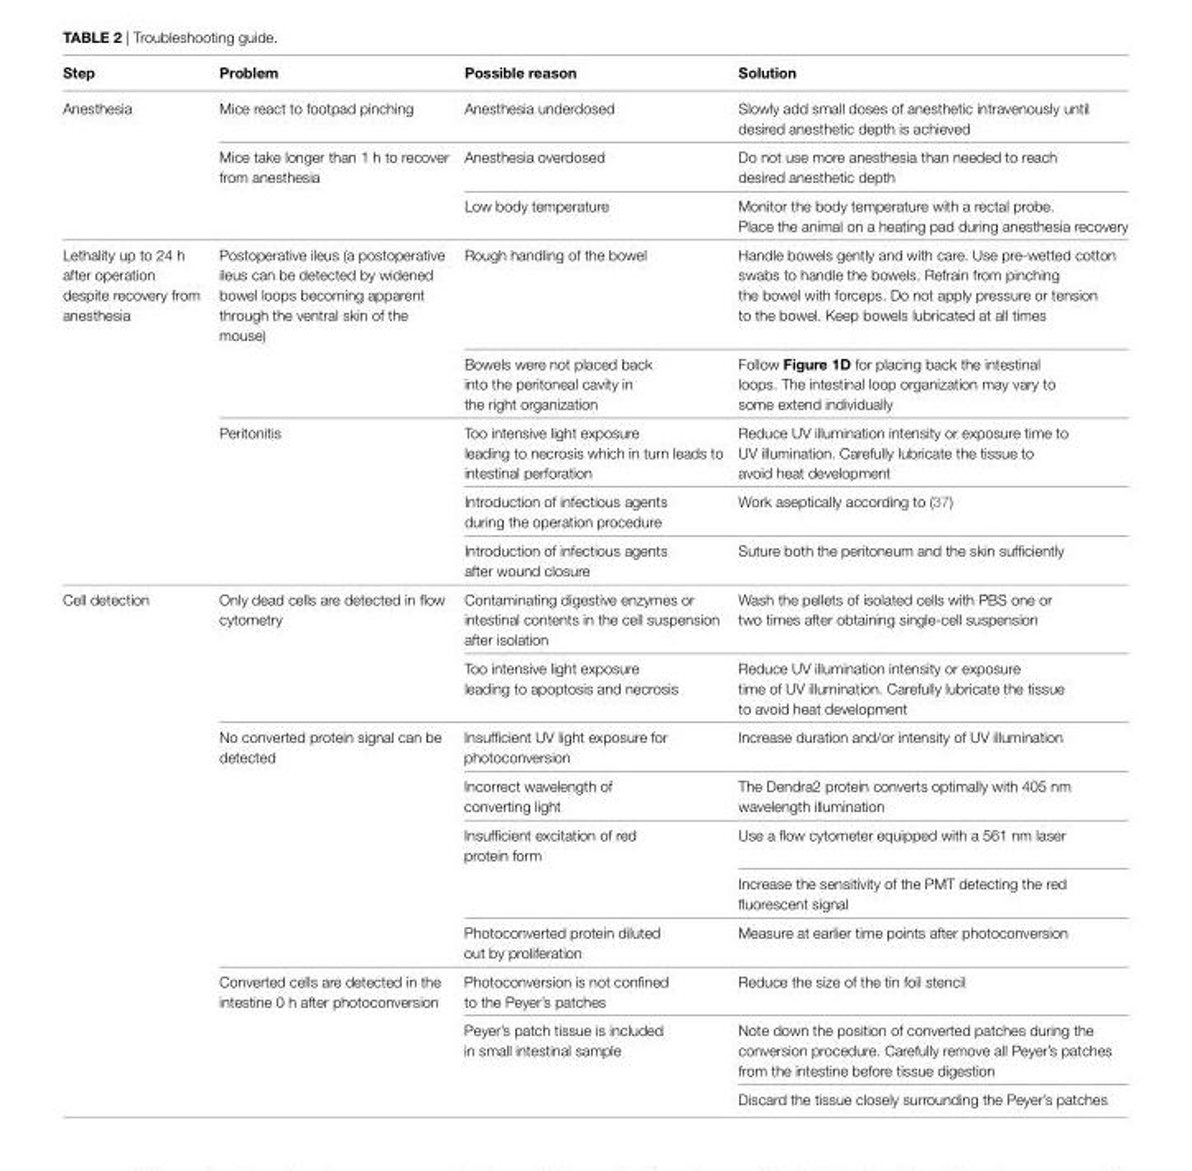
<table><thead><tr><td>step</td><td>Problem</td><td>Possible reason</td><td>solution</td></tr></thead><tbody><tr><td rowspan="3">Anesthesia</td><td>Mice react to footpad pinching</td><td>Anesthesia underdosed</td><td>Slowly add small doses of anesthetic intravenously until desired anesthetic depth is achieved</td></tr><tr><td>Mice take longer than 1 h to recover from anesthesia</td><td>Anesthesia overdosed</td><td>Do not use more anesthesia than needed to reach desired anesthetic depth</td></tr><tr><td></td><td>Low body temperature</td><td>Monitor the body temperature with a rectal probe. Place the animal on a heating pad during anesthesia recovery</td></tr><tr><td rowspan="5">Lethality up to 24 h after operation despite recovery from anesthesia</td><td>Postoperative ileus (a postoperative ileus can be detected by widened bowel loops becoming apparent through the ventral skin of the mouse)</td><td>Rough handling of the bowel</td><td>Handle bowels gently and with care. Use pre-wetted cotton swabs to handle the bowels. Refrain from pinching the bowel with forceps. Do not apply pressure or tension to the bowel. Keep bowels lubricated at all times</td></tr><tr><td></td><td>Bowels were not placed back into the peritoneal cavity in the right organization</td><td>Follow Figure 1D for placing back the intestinal loops. The intestinal loop organization may vary to some extend individually</td></tr><tr><td>Peritonitis</td><td>Too intensive light exposure leading to necrosis which in turn leads to intestinal perforation</td><td>Reduce UV illumination intensity or exposure time to UV illumination. Carefully lubricate the tissue to avoid heat development</td></tr><tr><td></td><td>Introduction of infectious agents during the operation procedure</td><td>Work aseptically according to (37)</td></tr><tr><td></td><td>Introduction of infectious agents after wound closure</td><td>Suture both the peritoneum and the skin sufficiently</td></tr><tr><td rowspan="10">Cell detection</td><td>Only dead cells are detected in flow cytometry</td><td>Contaminating digestive enzymes or intestinal contents in the cell suspension after isolation</td><td>Wash the pellets of isolated cells with PBS one or two times after obtaining single-cell suspension</td></tr><tr><td></td><td>Too intensive light exposure leading to apoptosis and necrosis</td><td>Reduce UV illumination intensity or exposure time of UV illumination. Carefully lubricate the tissue to avoid heat development</td></tr><tr><td>No converted protein signal can be detected</td><td>Insufficient UV light exposure for photoconversion</td><td>Increase duration and/or intensity of UV illumination</td></tr><tr><td></td><td>Incorrect wavelength of converting light</td><td>The Dendra2 protein converts optimally with 405 nm wavelength illumination</td></tr><tr><td></td><td>Insufficient excitation of red protein form</td><td>Use a flow cytometer equipped with a 561 nm laser</td></tr><tr><td></td><td></td><td>Increase the sensitivity of the PMT detecting the red fluorescent signal</td></tr><tr><td></td><td>Photoconverted protein diluted out by proliferation</td><td>Measure at earlier time points after photoconversion</td></tr><tr><td>Converted cells are detected in the intestine 0 h after photoconversion</td><td>Photoconversion is not confined to the Peyer’s patches</td><td>Reduce the size of the tin foil stencil</td></tr><tr><td></td><td>Peyer’s patch tissue is included in small intestinal sample</td><td>Note down the position of converted patches during the conversion procedure. Carefully remove all Peyer’s patches from the intestine before tissue digestion</td></tr><tr><td></td><td></td><td>Discard the tissue closely surrounding the Peyer’s patches</td></tr></tbody></table>